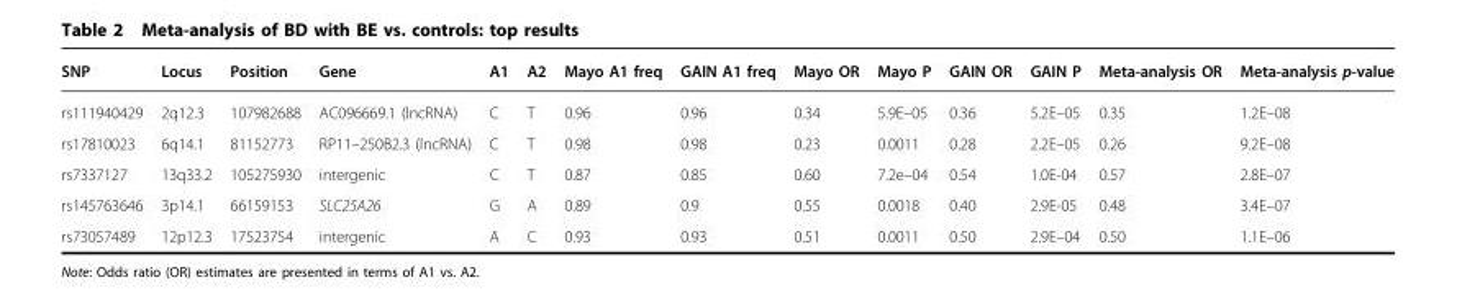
<table><thead><tr><td>SNP</td><td>Locus</td><td>Position</td><td>Gene</td><td>A1</td><td>A2</td><td>Mayo A1 freq</td><td>GAIN A1 freq</td><td>Mayo OR</td><td>Mayo P</td><td>GAIN OR</td><td>GAIN P</td><td>Meta-analysis OR</td><td>Meta-analysis p-value</td></tr></thead><tbody><tr><td>rs111940429</td><td>2q12.3</td><td>107982688</td><td>AC096669.1 (lncRNA)</td><td>C</td><td>T</td><td>0.96</td><td>0.96</td><td>0.34</td><td>5.9E–05</td><td>0.36</td><td>5.2E–05</td><td>0.35</td><td>1.2E–08</td></tr><tr><td>rs17810023</td><td>6q14.1</td><td>81152773</td><td>RP11–250B2.3 (lncRNA)</td><td>C</td><td>T</td><td>0.98</td><td>0.98</td><td>0.23</td><td>0.0011</td><td>0.28</td><td>2.2E–05</td><td>0.26</td><td>9.2E–08</td></tr><tr><td>rs7337127</td><td>13q33.2</td><td>105275930</td><td>intergenic</td><td>C</td><td>T</td><td>0.87</td><td>0.85</td><td>0.60</td><td>7.2e–04</td><td>0.54</td><td>1.0E-04</td><td>0.57</td><td>2.8E–07</td></tr><tr><td>rs145763646</td><td>3p14.1</td><td>66159153</td><td>SLC25A26</td><td>G</td><td>A</td><td>0.89</td><td>0.9</td><td>0.55</td><td>0.0018</td><td>0.40</td><td>2.9E-05</td><td>0.48</td><td>3.4E–07</td></tr><tr><td>rs73057489</td><td>12p12.3</td><td>17523754</td><td>intergenic</td><td>A</td><td>C</td><td>0.93</td><td>0.93</td><td>0.51</td><td>0.0011</td><td>0.50</td><td>2.9E–04</td><td>0.50</td><td>1.1E–06</td></tr></tbody></table>